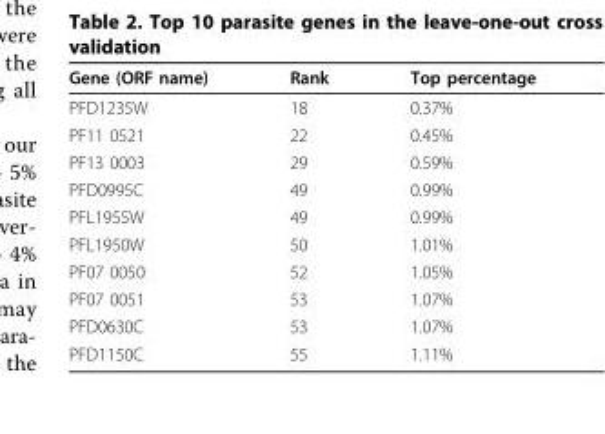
<table><thead><tr><td>Gene (ORF name)</td><td>Rank</td><td>Top percentage</td></tr></thead><tbody><tr><td>PFD1235W</td><td>18</td><td>0.37%</td></tr><tr><td>PF11 0521</td><td>22</td><td>0.45%</td></tr><tr><td>PF13 0003</td><td>29</td><td>0.59%</td></tr><tr><td>PFD0995C</td><td>49</td><td>0.99%</td></tr><tr><td>PFL1955W</td><td>49</td><td>0.99%</td></tr><tr><td>PFL1950W</td><td>50</td><td>1.01%</td></tr><tr><td>PF07 0050</td><td>52</td><td>1.05%</td></tr><tr><td>PF07 0051</td><td>53</td><td>1.07%</td></tr><tr><td>PFD0630C</td><td>53</td><td>1.07%</td></tr><tr><td>PFD1150C</td><td>55</td><td>1.11%</td></tr></tbody></table>